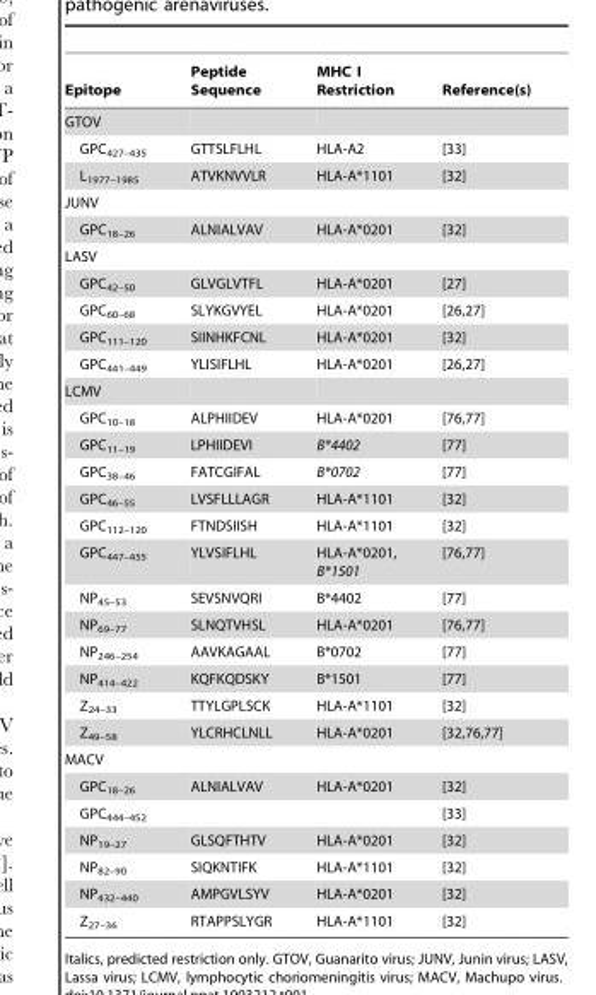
<table><thead><tr><td>Epitope</td><td>Peptide Sequence</td><td>MHC I Restriction</td><td>Reference(s)</td></tr></thead><tbody><tr><td colspan="4">GTOV</td></tr><tr><td>GPC<sub>427–435</sub></td><td>GTTSLFLHL</td><td>HLA-A2</td><td>[33]</td></tr><tr><td>L<sub>1977–1985</sub></td><td>ATVKNVVLR</td><td>HLA-A*1101</td><td>[32]</td></tr><tr><td colspan="4">JUNV</td></tr><tr><td>GPC<sub>18–26</sub></td><td>ALNIALVAV</td><td>HLA-A*0201</td><td>[32]</td></tr><tr><td colspan="4">LASV</td></tr><tr><td>GPC<sub>42–50</sub></td><td>GLVGLVTFL</td><td>HLA-A*0201</td><td>[27]</td></tr><tr><td>GPC<sub>60–68</sub></td><td>SLYKGVYEL</td><td>HLA-A*0201</td><td>[26,27]</td></tr><tr><td>GPC<sub>111–120</sub></td><td>SIINHKFCNL</td><td>HLA-A*0201</td><td>[32]</td></tr><tr><td>GPC<sub>441–449</sub></td><td>YLISIFLHL</td><td>HLA-A*0201</td><td>[26,27]</td></tr><tr><td colspan="4">LCMV</td></tr><tr><td>GPC<sub>10–18</sub></td><td>ALPHIIDEV</td><td>HLA-A*0201</td><td>[76,77]</td></tr><tr><td>GPC<sub>11–19</sub></td><td>LPHIIDEVI</td><td>B*4402</td><td>[77]</td></tr><tr><td>GPC<sub>38–46</sub></td><td>FATCGIFAL</td><td>B*0702</td><td>[77]</td></tr><tr><td>GPC<sub>46–55</sub></td><td>LVSFLLLAGR</td><td>HLA-A*1101</td><td>[32]</td></tr><tr><td>GPC<sub>112–120</sub></td><td>FTNDSIISH</td><td>HLA-A*1101</td><td>[32]</td></tr><tr><td>GPC<sub>447–455</sub></td><td>YLVSIFLHL</td><td>HLA-A*0201, B*1501</td><td>[76,77]</td></tr><tr><td>NP<sub>45–53</sub></td><td>SEVSNVQRI</td><td>B*4402</td><td>[77]</td></tr><tr><td>NP<sub>69–77</sub></td><td>SLNQTVHSL</td><td>HLA-A*0201</td><td>[76,77]</td></tr><tr><td>NP<sub>246–254</sub></td><td>AAVKAGAAL</td><td>B*0702</td><td>[77]</td></tr><tr><td>NP<sub>414–422</sub></td><td>KQFKQDSKY</td><td>B*1501</td><td>[77]</td></tr><tr><td>Z<sub>24–33</sub></td><td>TTYLGPLSCK</td><td>HLA-A*1101</td><td>[32]</td></tr><tr><td>Z<sub>49–58</sub></td><td>YLCRHCLNLL</td><td>HLA-A*0201</td><td>[32,76,77]</td></tr><tr><td colspan="4">MACV</td></tr><tr><td>GPC<sub>18–26</sub></td><td>ALNIALVAV</td><td>HLA-A*0201</td><td>[32]</td></tr><tr><td>GPC<sub>444–452</sub></td><td></td><td></td><td>[33]</td></tr><tr><td>NP<sub>19–27</sub></td><td>GLSQFTHTV</td><td>HLA-A*0201</td><td>[32]</td></tr><tr><td>NP<sub>82–90</sub></td><td>SIQKNTIFK</td><td>HLA-A*1101</td><td>[32]</td></tr><tr><td>NP<sub>432–440</sub></td><td>AMPGVLSYV</td><td>HLA-A*0201</td><td>[32]</td></tr><tr><td>Z<sub>27–36</sub></td><td>RTAPPSLYGR</td><td>HLA-A*1101</td><td>[32]</td></tr></tbody></table>